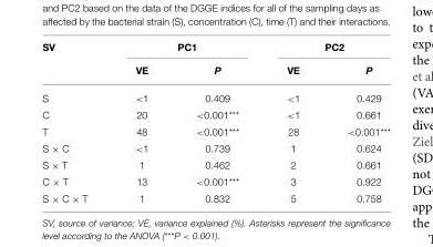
<table><thead><tr><td rowspan="2">SV</td><td colspan="2">PC1</td><td colspan="2">PC2</td></tr><tr><td>VE</td><td>P</td><td>VE</td><td>P</td></tr></thead><tbody><tr><td>S</td><td>&lt;1</td><td>0.409</td><td>&lt;1</td><td>0.429</td></tr><tr><td>C</td><td>20</td><td>&lt;0.001***</td><td>&lt;1</td><td>0.661</td></tr><tr><td>T</td><td>48</td><td>&lt;0.001***</td><td>28</td><td>&lt;0.001***</td></tr><tr><td>S × C</td><td>&lt;1</td><td>0.739</td><td>1</td><td>0.624</td></tr><tr><td>S × T</td><td>1</td><td>0.462</td><td>2</td><td>0.661</td></tr><tr><td>C × T</td><td>13</td><td>&lt;0.001***</td><td>3</td><td>0.922</td></tr><tr><td>S × C × T</td><td>1</td><td>0.832</td><td>5</td><td>0.758</td></tr></tbody></table>